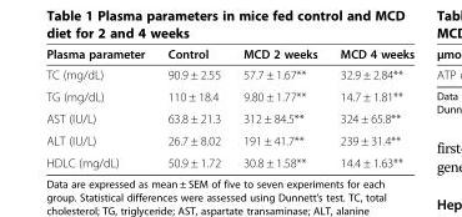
<table><thead><tr><td>Plasma parameter</td><td>Control</td><td>MCD 2 weeks</td><td>MCD 4 weeks</td></tr></thead><tbody><tr><td>TC (mg/dL)</td><td>90.9 ± 2.55</td><td>57.7 ± 1.67**</td><td>32.9 ± 2.84**</td></tr><tr><td>TG (mg/dL)</td><td>110 ± 18.4</td><td>9.80 ± 1.77**</td><td>14.7 ± 1.81**</td></tr><tr><td>AST (IU/L)</td><td>63.8 ± 21.3</td><td>312 ± 84.5**</td><td>324 ± 65.8**</td></tr><tr><td>ALT (IU/L)</td><td>26.7 ± 8.02</td><td>191 ± 41.7**</td><td>239 ± 31.4**</td></tr><tr><td>HDLC (mg/dL)</td><td>50.9 ± 1.72</td><td>30.8 ± 1.58**</td><td>14.4 ± 1.63**</td></tr></tbody></table>